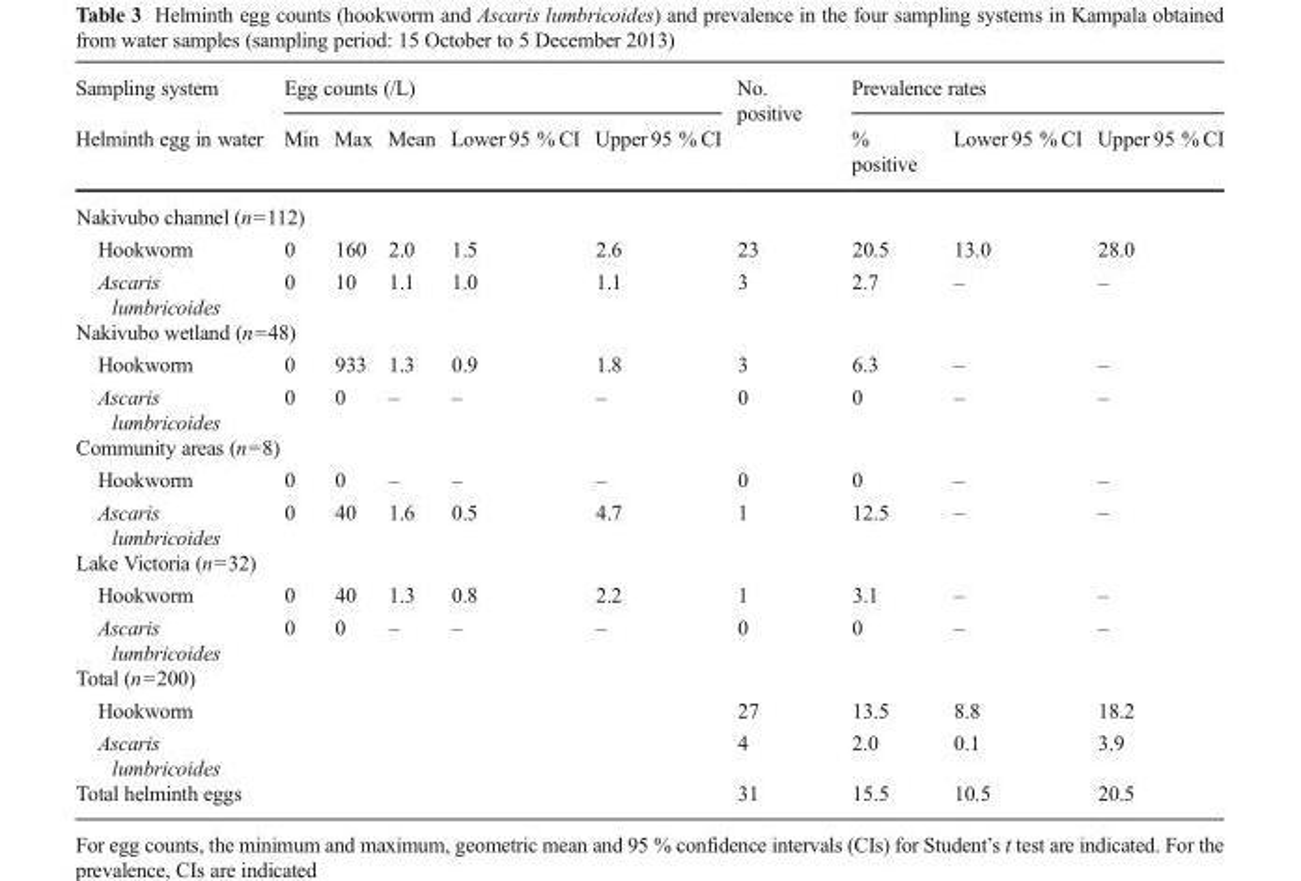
<table><thead><tr><td rowspan="2">Sampling system Helminth egg in water</td><td colspan="5">Egg counts (/L)</td><td rowspan="2">No. positive</td><td colspan="3">Prevalence rates</td></tr><tr><td>Min</td><td>Max</td><td>Mean</td><td>Lower 95 % CI</td><td>Upper 95 % CI</td><td>% positive</td><td>Lower 95 % CI</td><td>Upper 95 % CI</td></tr></thead><tbody><tr><td colspan="10">Nakivubo channel (n=112)</td></tr><tr><td>Hookworm</td><td>0</td><td>160</td><td>2.0</td><td>1.5</td><td>2.6</td><td>23</td><td>20.5</td><td>13.0</td><td>28.0</td></tr><tr><td>Ascaris lumbricoides</td><td>0</td><td>10</td><td>1.1</td><td>1.0</td><td>1.1</td><td>3</td><td>2.7</td><td>–</td><td>–</td></tr><tr><td colspan="10">Nakivubo wetland (n=48)</td></tr><tr><td>Hookworm</td><td>0</td><td>933</td><td>1.3</td><td>0.9</td><td>1.8</td><td>3</td><td>6.3</td><td>–</td><td>–</td></tr><tr><td>Ascaris lumbricoides</td><td>0</td><td>0</td><td>–</td><td>–</td><td>–</td><td>0</td><td>0</td><td>–</td><td>–</td></tr><tr><td colspan="10">Community areas (n=8)</td></tr><tr><td>Hookworm</td><td>0</td><td>0</td><td>–</td><td>–</td><td>–</td><td>0</td><td>0</td><td>–</td><td>–</td></tr><tr><td>Ascaris lumbricoides</td><td>0</td><td>40</td><td>1.6</td><td>0.5</td><td>4.7</td><td>1</td><td>12.5</td><td>–</td><td>–</td></tr><tr><td colspan="10">Lake Victoria (n=32)</td></tr><tr><td>Hookworm</td><td>0</td><td>40</td><td>1.3</td><td>0.8</td><td>2.2</td><td>1</td><td>3.1</td><td>–</td><td>–</td></tr><tr><td>Ascaris lumbricoides</td><td>0</td><td>0</td><td>–</td><td>–</td><td>–</td><td>0</td><td>0</td><td>–</td><td>–</td></tr><tr><td colspan="10">Total (n=200)</td></tr><tr><td>Hookworm</td><td></td><td></td><td></td><td></td><td></td><td>27</td><td>13.5</td><td>8.8</td><td>18.2</td></tr><tr><td>Ascaris lumbricoides</td><td></td><td></td><td></td><td></td><td></td><td>4</td><td>2.0</td><td>0.1</td><td>3.9</td></tr><tr><td>Total helminth eggs</td><td></td><td></td><td></td><td></td><td></td><td>31</td><td>15.5</td><td>10.5</td><td>20.5</td></tr></tbody></table>